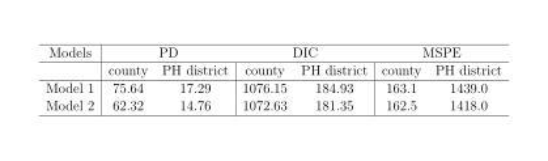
<table><thead><tr><td rowspan="2">Models</td><td colspan="2">PD</td><td colspan="2">DIC</td><td colspan="2">MSPE</td></tr><tr><td>county</td><td>PH district</td><td>county</td><td>PH district</td><td>county</td><td>PH district</td></tr></thead><tbody><tr><td>Model 1</td><td>75.64</td><td>17.29</td><td>1076.15</td><td>184.93</td><td>163.1</td><td>1439.0</td></tr><tr><td>Model 2</td><td>62.32</td><td>14.76</td><td>1072.63</td><td>181.35</td><td>162.5</td><td>1418.0</td></tr></tbody></table>